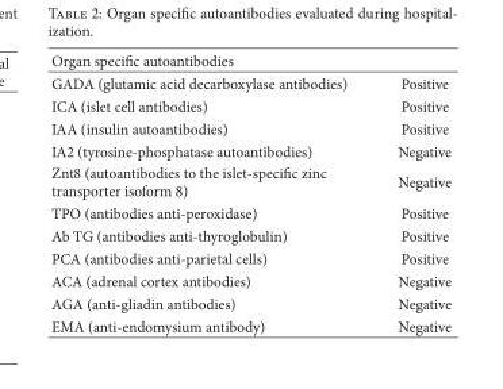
<table><thead><tr><td>Organ specific autoantibodies</td><td></td></tr></thead><tbody><tr><td>GADA (glutamic acid decarboxylase antibodies)</td><td>Positive</td></tr><tr><td>ICA (islet cell antibodies)</td><td>Positive</td></tr><tr><td>IAA (insulin autoantibodies)</td><td>Positive</td></tr><tr><td>IA2 (tyrosine-phosphatase autoantibodies)</td><td>Negative</td></tr><tr><td>Znt8 (autoantibodies to the islet-specific zinc transporter isoform 8)</td><td>Negative</td></tr><tr><td>TPO (antibodies anti-peroxidase)</td><td>Positive</td></tr><tr><td>Ab TG (antibodies anti-thyroglobulin)</td><td>Positive</td></tr><tr><td>PCA (antibodies anti-parietal cells)</td><td>Positive</td></tr><tr><td>ACA (adrenal cortex antibodies)</td><td>Negative</td></tr><tr><td>AGA (anti-gliadin antibodies)</td><td>Negative</td></tr><tr><td>EMA (anti-endomysium antibody)</td><td>Negative</td></tr></tbody></table>